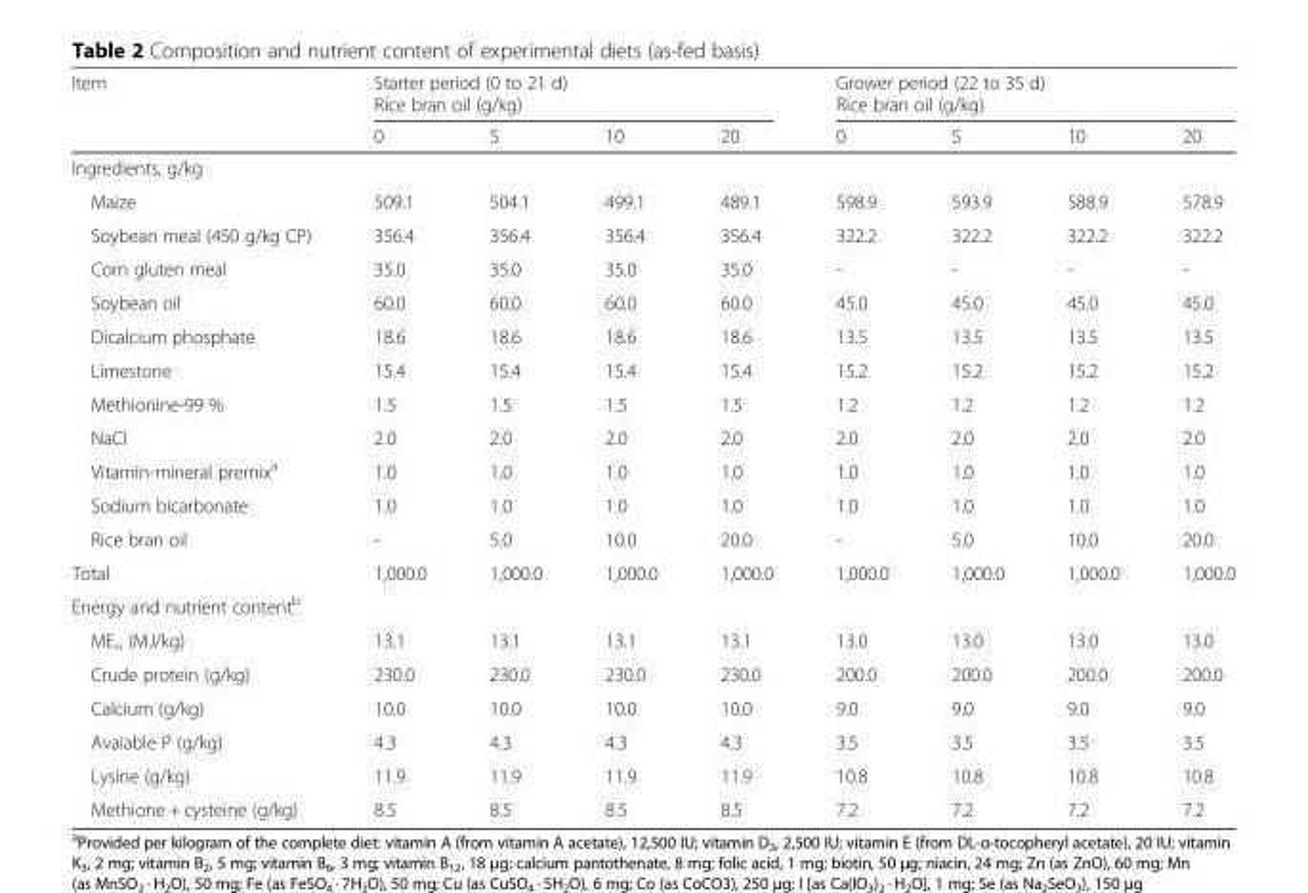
<table><thead><tr><td rowspan="3">Item</td><td rowspan="2" colspan="4">Starter period (0 to 21 d) Rice bran oil (g/kg)</td><td rowspan="2" colspan="4">Grower period (22 to 35 d) Rice bran oil (g/kg)</td></tr><tr></tr><tr><td>0</td><td>5</td><td>10</td><td>20</td><td>0</td><td>5</td><td>10</td><td>20</td></tr></thead><tbody><tr><td colspan="9">Ingredients, g/kg</td></tr><tr><td>Maize</td><td>509.1</td><td>504.1</td><td>499.1</td><td>489.1</td><td>598.9</td><td>593.9</td><td>588.9</td><td>578.9</td></tr><tr><td>Soybean meal (450 g/kg CP)</td><td>356.4</td><td>356.4</td><td>356.4</td><td>356.4</td><td>322.2</td><td>322.2</td><td>322.2</td><td>322.2</td></tr><tr><td>Corn gluten meal</td><td>35.0</td><td>35.0</td><td>35.0</td><td>35.0</td><td>-</td><td>-</td><td>-</td><td>-</td></tr><tr><td>Soybean oil</td><td>60.0</td><td>60.0</td><td>60.0</td><td>60.0</td><td>45.0</td><td>45.0</td><td>45.0</td><td>45.0</td></tr><tr><td>Dicalcium phosphate</td><td>18.6</td><td>18.6</td><td>18.6</td><td>18.6</td><td>13.5</td><td>13.5</td><td>13.5</td><td>13.5</td></tr><tr><td>Limestone</td><td>15.4</td><td>15.4</td><td>15.4</td><td>15.4</td><td>15.2</td><td>15.2</td><td>15.2</td><td>15.2</td></tr><tr><td>Methionine-99 %</td><td>1.5</td><td>1.5</td><td>1.5</td><td>1.5</td><td>1.2</td><td>1.2</td><td>1.2</td><td>1.2</td></tr><tr><td>NaCl</td><td>2.0</td><td>2.0</td><td>2.0</td><td>2.0</td><td>2.0</td><td>2.0</td><td>2.0</td><td>2.0</td></tr><tr><td>Vitamin-mineral premix<sup>a</sup></td><td>1.0</td><td>1.0</td><td>1.0</td><td>1.0</td><td>1.0</td><td>1.0</td><td>1.0</td><td>1.0</td></tr><tr><td>Sodium bicarbonate</td><td>1.0</td><td>1.0</td><td>1.0</td><td>1.0</td><td>1.0</td><td>1.0</td><td>1.0</td><td>1.0</td></tr><tr><td>Rice bran oil</td><td>-</td><td>5.0</td><td>10.0</td><td>20.0</td><td>-</td><td>5.0</td><td>10.0</td><td>20.0</td></tr><tr><td>Total</td><td>1,000.0</td><td>1,000.0</td><td>1,000.0</td><td>1,000.0</td><td>1,000.0</td><td>1,000.0</td><td>1,000.0</td><td>1,000.0</td></tr><tr><td colspan="9">Energy and nutrient content<sup>b</sup></td></tr><tr><td>ME<sub>n</sub> (MJ/kg)</td><td>13.1</td><td>13.1</td><td>13.1</td><td>13.1</td><td>13.0</td><td>13.0</td><td>13.0</td><td>13.0</td></tr><tr><td>Crude protein (g/kg)</td><td>230.0</td><td>230.0</td><td>230.0</td><td>230.0</td><td>200.0</td><td>200.0</td><td>200.0</td><td>200.0</td></tr><tr><td>Calcium (g/kg)</td><td>10.0</td><td>10.0</td><td>10.0</td><td>10.0</td><td>9.0</td><td>9.0</td><td>9.0</td><td>9.0</td></tr><tr><td>Avaiable P (g/kg)</td><td>4.3</td><td>4.3</td><td>4.3</td><td>4.3</td><td>3.5</td><td>3.5</td><td>3.5</td><td>3.5</td></tr><tr><td>Lysine (g/kg)</td><td>11.9</td><td>11.9</td><td>11.9</td><td>11.9</td><td>10.8</td><td>10.8</td><td>10.8</td><td>10.8</td></tr><tr><td>Methione + cysteine (g/kg)</td><td>8.5</td><td>8.5</td><td>8.5</td><td>8.5</td><td>7.2</td><td>7.2</td><td>7.2</td><td>7.2</td></tr></tbody></table>